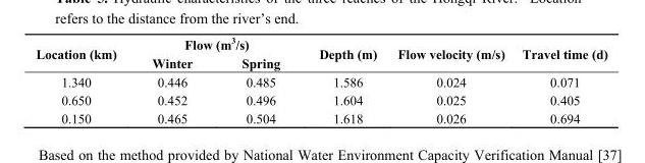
<table><thead><tr><td rowspan="2">Location (km)</td><td colspan="2">Flow (m<sup>3</sup>/s)</td><td rowspan="2">Depth (m)</td><td rowspan="2">Flow velocity (m/s)</td><td rowspan="2">Travel time (d)</td></tr><tr><td>Winter</td><td>Spring</td></tr></thead><tbody><tr><td>1.340</td><td>0.446</td><td>0.485</td><td>1.586</td><td>0.024</td><td>0.071</td></tr><tr><td>0.650</td><td>0.452</td><td>0.496</td><td>1.604</td><td>0.025</td><td>0.405</td></tr><tr><td>0.150</td><td>0.465</td><td>0.504</td><td>1.618</td><td>0.026</td><td>0.694</td></tr></tbody></table>